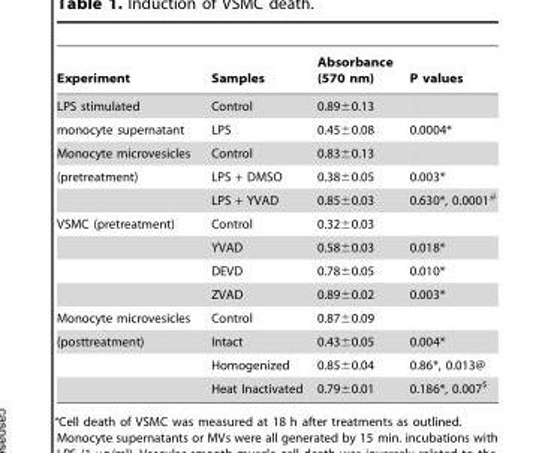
<table><thead><tr><td>Experiment</td><td>Samples</td><td>Absorbance (570 nm)</td><td>P values</td></tr></thead><tbody><tr><td>LPS stimulated</td><td>Control</td><td>0.89±0.13</td><td></td></tr><tr><td>monocyte supernatant</td><td>LPS</td><td>0.45±0.08</td><td>0.0004*</td></tr><tr><td>Monocyte microvesicles</td><td>Control</td><td>0.83±0.13</td><td></td></tr><tr><td rowspan="2">(pretreatment)</td><td>LPS + DMSO</td><td>0.38±0.05</td><td>0.003*</td></tr><tr><td>LPS + YVAD</td><td>0.85±0.03</td><td>0.630*, 0.0001<sup>#</sup></td></tr><tr><td rowspan="4">VSMC (pretreatment)</td><td>Control</td><td>0.32±0.03</td><td></td></tr><tr><td>YVAD</td><td>0.58±0.03</td><td>0.018*</td></tr><tr><td>DEVD</td><td>0.78±0.05</td><td>0.010*</td></tr><tr><td>ZVAD</td><td>0.89±0.02</td><td>0.003*</td></tr><tr><td>Monocyte microvesicles</td><td>Control</td><td>0.87±0.09</td><td></td></tr><tr><td rowspan="3">(posttreatment)</td><td>Intact</td><td>0.43±0.05</td><td>0.004*</td></tr><tr><td>Homogenized</td><td>0.85±0.04</td><td>0.86*, 0.013@</td></tr><tr><td>Heat Inactivated</td><td>0.79±0.01</td><td>0.186*, 0.007<sup>$</sup></td></tr></tbody></table>